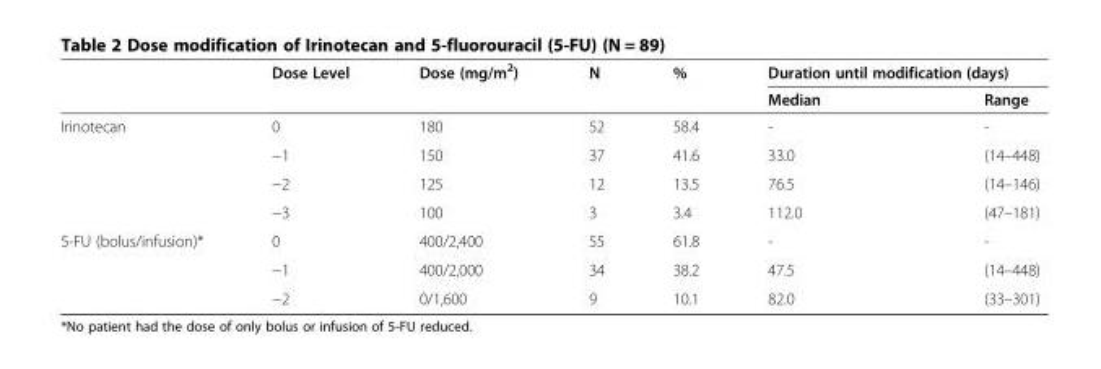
<table><thead><tr><td rowspan="2"></td><td rowspan="2">Dose Level</td><td rowspan="2">Dose (mg/m<sup>2</sup>)</td><td rowspan="2">N</td><td rowspan="2">%</td><td colspan="2">Duration until modification (days)</td></tr><tr><td>Median</td><td>Range</td></tr></thead><tbody><tr><td rowspan="4">Irinotecan</td><td>0</td><td>180</td><td>52</td><td>58.4</td><td>-</td><td>-</td></tr><tr><td>−1</td><td>150</td><td>37</td><td>41.6</td><td>33.0</td><td>(14–448)</td></tr><tr><td>−2</td><td>125</td><td>12</td><td>13.5</td><td>76.5</td><td>(14–146)</td></tr><tr><td>−3</td><td>100</td><td>3</td><td>3.4</td><td>112.0</td><td>(47–181)</td></tr><tr><td rowspan="3">5-FU (bolus/infusion)*</td><td>0</td><td>400/2,400</td><td>55</td><td>61.8</td><td>-</td><td>-</td></tr><tr><td>−1</td><td>400/2,000</td><td>34</td><td>38.2</td><td>47.5</td><td>(14–448)</td></tr><tr><td>−2</td><td>0/1,600</td><td>9</td><td>10.1</td><td>82.0</td><td>(33–301)</td></tr></tbody></table>